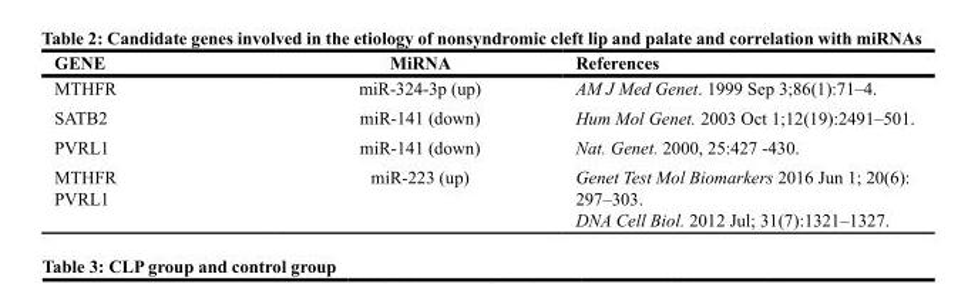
<table><thead><tr><td>GENE</td><td>MiRNA</td><td>References</td></tr></thead><tbody><tr><td>MTHFR</td><td>miR-324-3p (up)</td><td>AM J Med Genet. 1999 Sep 3;86(1):71–4.</td></tr><tr><td>SATB2</td><td>miR-141 (down)</td><td>Hum Mol Genet. 2003 Oct 1;12(19):2491–501.</td></tr><tr><td>PVRL1</td><td>miR-141 (down)</td><td>Nat. Genet. 2000, 25:427 -430.</td></tr><tr><td>MTHFR PVRL1</td><td>miR-223 (up)</td><td>Genet Test Mol Biomarkers 2016 Jun 1; 20(6): 297–303. DNA Cell Biol. 2012 Jul; 31(7):1321–1327.</td></tr></tbody></table>